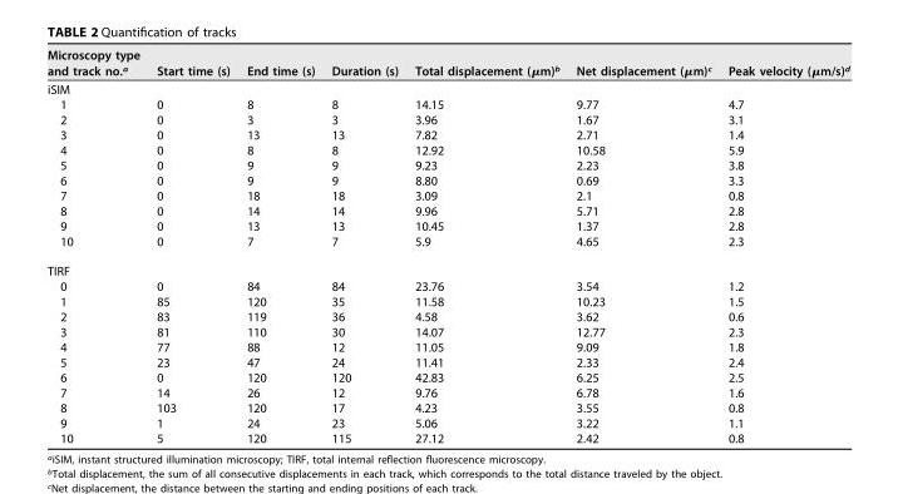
<table><thead><tr><td>Microscopy type and track no.<sup>a</sup></td><td>Start time (s)</td><td>End time (s)</td><td>Duration (s)</td><td>Total displacement (μm)<sup>b</sup></td><td>Net displacement (μm)<sup>c</sup></td><td>Peak velocity (μm/s)<sup>d</sup></td></tr></thead><tbody><tr><td colspan="7">iSIM</td></tr><tr><td>1</td><td>0</td><td>8</td><td>8</td><td>14.15</td><td>9.77</td><td>4.7</td></tr><tr><td>2</td><td>0</td><td>3</td><td>3</td><td>3.96</td><td>1.67</td><td>3.1</td></tr><tr><td>3</td><td>0</td><td>13</td><td>13</td><td>7.82</td><td>2.71</td><td>1.4</td></tr><tr><td>4</td><td>0</td><td>8</td><td>8</td><td>12.92</td><td>10.58</td><td>5.9</td></tr><tr><td>5</td><td>0</td><td>9</td><td>9</td><td>9.23</td><td>2.23</td><td>3.8</td></tr><tr><td>6</td><td>0</td><td>9</td><td>9</td><td>8.80</td><td>0.69</td><td>3.3</td></tr><tr><td>7</td><td>0</td><td>18</td><td>18</td><td>3.09</td><td>2.1</td><td>0.8</td></tr><tr><td>8</td><td>0</td><td>14</td><td>14</td><td>9.96</td><td>5.71</td><td>2.8</td></tr><tr><td>9</td><td>0</td><td>13</td><td>13</td><td>10.45</td><td>1.37</td><td>2.8</td></tr><tr><td>10</td><td>0</td><td>7</td><td>7</td><td>5.9</td><td>4.65</td><td>2.3</td></tr><tr><td colspan="7">TIRF</td></tr><tr><td>0</td><td>0</td><td>84</td><td>84</td><td>23.76</td><td>3.54</td><td>1.2</td></tr><tr><td>1</td><td>85</td><td>120</td><td>35</td><td>11.58</td><td>10.23</td><td>1.5</td></tr><tr><td>2</td><td>83</td><td>119</td><td>36</td><td>4.58</td><td>3.62</td><td>0.6</td></tr><tr><td>3</td><td>81</td><td>110</td><td>30</td><td>14.07</td><td>12.77</td><td>2.3</td></tr><tr><td>4</td><td>77</td><td>88</td><td>12</td><td>11.05</td><td>9.09</td><td>1.8</td></tr><tr><td>5</td><td>23</td><td>47</td><td>24</td><td>11.41</td><td>2.33</td><td>2.4</td></tr><tr><td>6</td><td>0</td><td>120</td><td>120</td><td>42.83</td><td>6.25</td><td>2.5</td></tr><tr><td>7</td><td>14</td><td>26</td><td>12</td><td>9.76</td><td>6.78</td><td>1.6</td></tr><tr><td>8</td><td>103</td><td>120</td><td>17</td><td>4.23</td><td>3.55</td><td>0.8</td></tr><tr><td>9</td><td>1</td><td>24</td><td>23</td><td>5.06</td><td>3.22</td><td>1.1</td></tr><tr><td>10</td><td>5</td><td>120</td><td>115</td><td>27.12</td><td>2.42</td><td>0.8</td></tr></tbody></table>